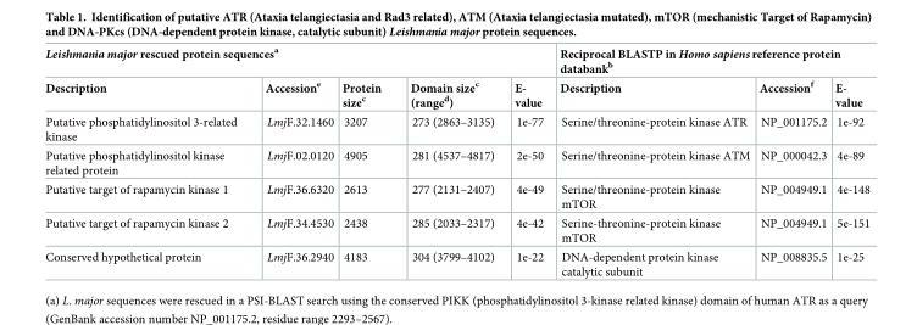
<table><thead><tr><td colspan="5">Leishmania major rescued protein sequences<sup>a</sup></td><td colspan="3">Reciprocal BLASTP in Homo sapiens reference protein databank<sup>b</sup></td></tr><tr><td>Description</td><td>Accession<sup>e</sup></td><td>Protein size<sup>c</sup></td><td>Domain size<sup>c</sup> (range<sup>d</sup>)</td><td>E- value</td><td>Description</td><td>Accession<sup>f</sup></td><td>E- value</td></tr></thead><tbody><tr><td>Putative phosphatidylinositol 3-related kinase</td><td>LmjF.32.1460</td><td>3207</td><td>273 (2863–3135)</td><td>1e-77</td><td>Serine/threonine-protein kinase ATR</td><td>NP_001175.2</td><td>1e-92</td></tr><tr><td>Putative phosphatidylinositol kinase related protein</td><td>LmjF.02.0120</td><td>4905</td><td>281 (4537–4817)</td><td>2e-50</td><td>Serine/threonine-protein kinase ATM</td><td>NP_000042.3</td><td>4e-89</td></tr><tr><td>Putative target of rapamycin kinase 1</td><td>LmjF.36.6320</td><td>2613</td><td>277 (2131–2407)</td><td>4e-49</td><td>Serine/threonine-protein kinase mTOR</td><td>NP_004949.1</td><td>4e-148</td></tr><tr><td>Putative target of rapamycin kinase 2</td><td>LmjF.34.4530</td><td>2438</td><td>285 (2033–2317)</td><td>4e-42</td><td>Serine-threonine-protein kinase mTOR</td><td>NP_004949.1</td><td>5e-151</td></tr><tr><td>Conserved hypothetical protein</td><td>LmjF.36.2940</td><td>4183</td><td>304 (3799–4102)</td><td>1e-22</td><td>DNA-dependent protein kinase catalytic subunit</td><td>NP_008835.5</td><td>1e-25</td></tr></tbody></table>